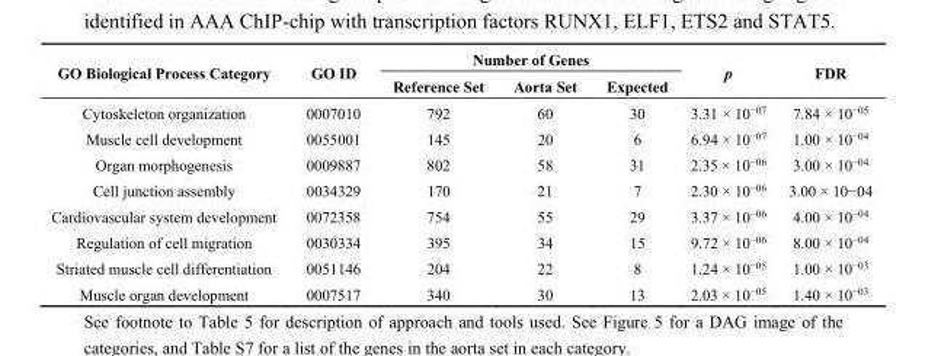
<table><thead><tr><td rowspan="2">GO Biological Process Category</td><td rowspan="2">GO ID</td><td colspan="3">Number of Genes</td><td rowspan="2">p</td><td rowspan="2">FDR</td></tr><tr><td>Reference Set</td><td>Aorta Set</td><td>Expected</td></tr></thead><tbody><tr><td>Cytoskeleton organization</td><td>0007010</td><td>792</td><td>60</td><td>30</td><td>3.31 × 10<sup>−07</sup></td><td>7.84 × 10<sup>−05</sup></td></tr><tr><td>Muscle cell development</td><td>0055001</td><td>145</td><td>20</td><td>6</td><td>6.94 × 10<sup>−07</sup></td><td>1.00 × 10<sup>−04</sup></td></tr><tr><td>Organ morphogenesis</td><td>0009887</td><td>802</td><td>58</td><td>31</td><td>2.35 × 10<sup>−06</sup></td><td>3.00 × 10<sup>−04</sup></td></tr><tr><td>Cell junction assembly</td><td>0034329</td><td>170</td><td>21</td><td>7</td><td>2.30 × 10<sup>−06</sup></td><td>3.00 × 10−04</td></tr><tr><td>Cardiovascular system development</td><td>0072358</td><td>754</td><td>55</td><td>29</td><td>3.37 × 10<sup>−06</sup></td><td>4.00 × 10<sup>−04</sup></td></tr><tr><td>Regulation of cell migration</td><td>0030334</td><td>395</td><td>34</td><td>15</td><td>9.72 × 10<sup>−06</sup></td><td>8.00 × 10<sup>−04</sup></td></tr><tr><td>Striated muscle cell differentiation</td><td>0051146</td><td>204</td><td>22</td><td>8</td><td>1.24 × 10<sup>−05</sup></td><td>1.00 × 10<sup>−03</sup></td></tr><tr><td>Muscle organ development</td><td>0007517</td><td>340</td><td>30</td><td>13</td><td>2.03 × 10<sup>−05</sup></td><td>1.40 × 10<sup>−03</sup></td></tr></tbody></table>